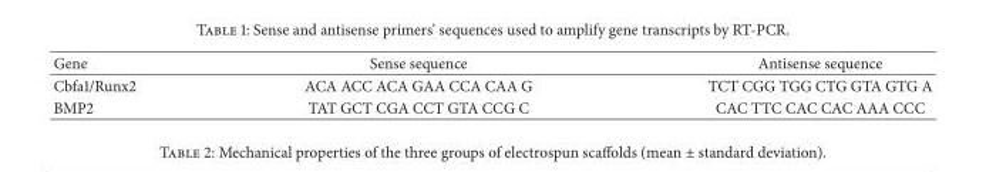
<table><thead><tr><td>Gene</td><td>Sense sequence</td><td>Antisense sequence</td></tr></thead><tbody><tr><td>Cbfa1/Runx2</td><td>ACA ACC ACA GAA CCA CAA G</td><td>TCT CGG TGG CTG GTA GTG A</td></tr><tr><td>BMP2</td><td>TAT GCT CGA CCT GTA CCG C</td><td>CAC TTC CAC CAC AAA CCC</td></tr></tbody></table>